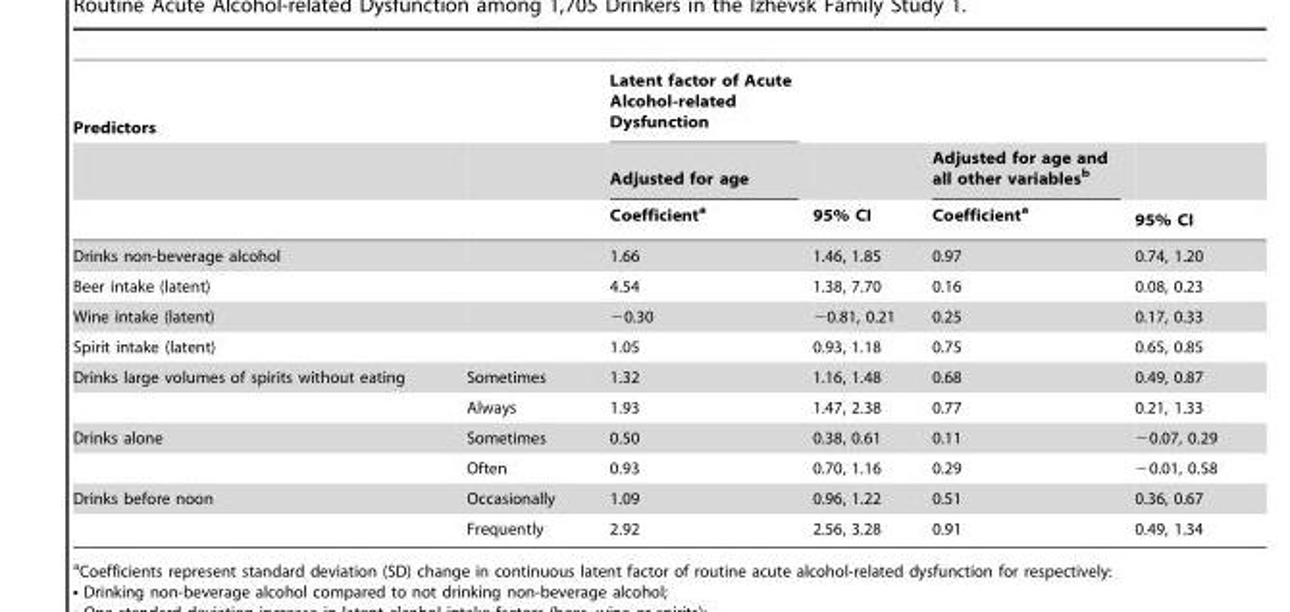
<table><thead><tr><td rowspan="3">Predictors</td><td rowspan="3"></td><td rowspan="3">Latent factor of Acute Alcohol-related Dysfunction Adjusted for age Coefficient<sup>a</sup></td><td rowspan="3">95% CI</td><td rowspan="3">Adjusted for age and all other variables<sup>b</sup> Coefficient<sup>a</sup></td><td rowspan="3">95% CI</td></tr><tr></tr><tr></tr></thead><tbody><tr><td>Drinks non-beverage alcohol</td><td></td><td>1.66</td><td>1.46, 1.85</td><td>0.97</td><td>0.74, 1.20</td></tr><tr><td>Beer intake (latent)</td><td></td><td>4.54</td><td>1.38, 7.70</td><td>0.16</td><td>0.08, 0.23</td></tr><tr><td>Wine intake (latent)</td><td></td><td>−0.30</td><td>−0.81, 0.21</td><td>0.25</td><td>0.17, 0.33</td></tr><tr><td>Spirit intake (latent)</td><td></td><td>1.05</td><td>0.93, 1.18</td><td>0.75</td><td>0.65, 0.85</td></tr><tr><td rowspan="2">Drinks large volumes of spirits without eating</td><td>Sometimes</td><td>1.32</td><td>1.16, 1.48</td><td>0.68</td><td>0.49, 0.87</td></tr><tr><td>Always</td><td>1.93</td><td>1.47, 2.38</td><td>0.77</td><td>0.21, 1.33</td></tr><tr><td rowspan="2">Drinks alone</td><td>Sometimes</td><td>0.50</td><td>0.38, 0.61</td><td>0.11</td><td>−0.07, 0.29</td></tr><tr><td>Often</td><td>0.93</td><td>0.70, 1.16</td><td>0.29</td><td>−0.01, 0.58</td></tr><tr><td rowspan="2">Drinks before noon</td><td>Occasionally</td><td>1.09</td><td>0.96, 1.22</td><td>0.51</td><td>0.36, 0.67</td></tr><tr><td>Frequently</td><td>2.92</td><td>2.56, 3.28</td><td>0.91</td><td>0.49, 1.34</td></tr></tbody></table>